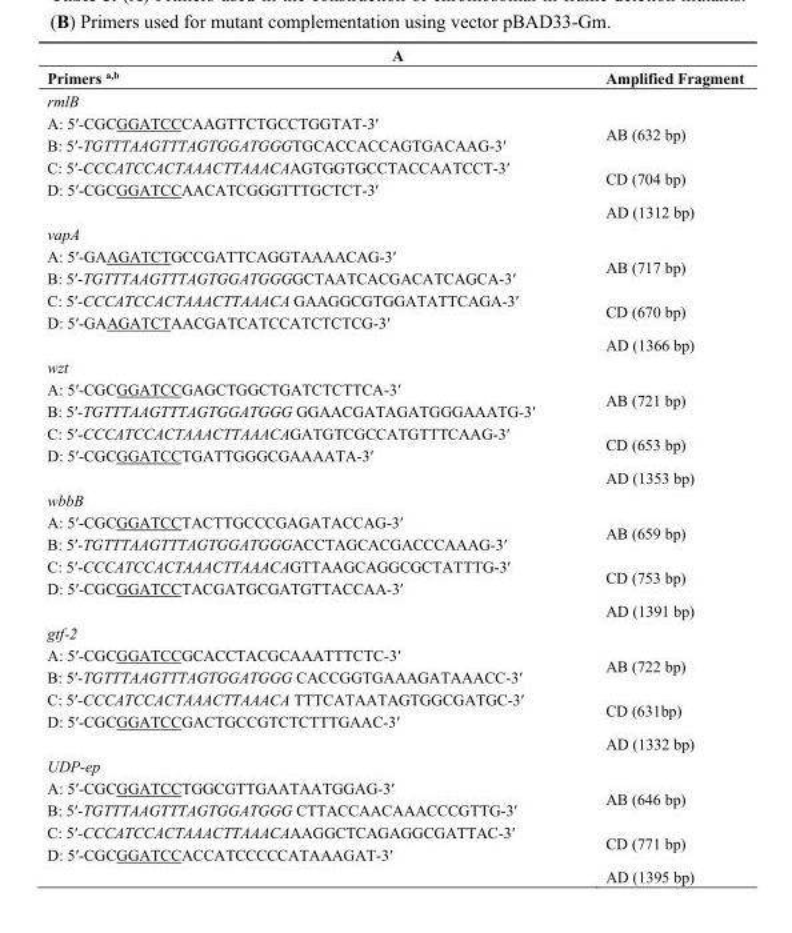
<table><thead><tr><td colspan="2">A</td></tr><tr><td>Primers <sup>a,b</sup></td><td>Amplified Fragment</td></tr></thead><tbody><tr><td colspan="2">rmlB</td></tr><tr><td>A: 5′-CGCGGATCCCAAGTTCTGCCTGGTAT-3′</td><td rowspan="2">AB (632 bp)</td></tr><tr><td>B: 5′-TGTTTAAGTTTAGTGGATGGGTGCACCACCAGTGACAAG-3′</td></tr><tr><td>C: 5′-CCCATCCACTAAACTTAAACAAGTGGTGCCTACCAATCCT-3′</td><td rowspan="2">CD (704 bp)</td></tr><tr><td rowspan="2">D: 5′-CGCGGATCCAACATCGGGTTTGCTCT-3′</td></tr><tr><td>AD (1312 bp)</td></tr><tr><td colspan="2">vapA</td></tr><tr><td>A: 5′-GAAGATCTGCCGATTCAGGTAAAACAG-3′</td><td rowspan="2">AB (717 bp)</td></tr><tr><td>B: 5′-TGTTTAAGTTTAGTGGATGGGGCTAATCACGACATCAGCA-3′</td></tr><tr><td>C: 5′-CCCATCCACTAAACTTAAACA GAAGGCGTGGATATTCAGA-3′</td><td rowspan="2">CD (670 bp)</td></tr><tr><td rowspan="2">D: 5′-GAAGATCTAACGATCATCCATCTCTCG-3′</td></tr><tr><td>AD (1366 bp)</td></tr><tr><td colspan="2">wzt</td></tr><tr><td>A: 5′-CGCGGATCCGAGCTGGCTGATCTCTTCA-3′</td><td rowspan="2">AB (721 bp)</td></tr><tr><td>B: 5′-TGTTTAAGTTTAGTGGATGGG GGAACGATAGATGGGAAATG-3′</td></tr><tr><td>C: 5′-CCCATCCACTAAACTTAAACAGATGTCGCCATGTTTCAAG-3′</td><td rowspan="2">CD (653 bp)</td></tr><tr><td rowspan="2">D: 5′-CGCGGATCCTGATTGGGCGAAAATA-3′</td></tr><tr><td>AD (1353 bp)</td></tr><tr><td colspan="2">wbbB</td></tr><tr><td>A: 5′-CGCGGATCCTACTTGCCCGAGATACCAG-3′</td><td rowspan="2">AB (659 bp)</td></tr><tr><td>B: 5′-TGTTTAAGTTTAGTGGATGGGACCTAGCACGACCCAAAG-3′</td></tr><tr><td>C: 5′-CCCATCCACTAAACTTAAACAGTTAAGCAGGCGCTATTTG-3′</td><td rowspan="2">CD (753 bp)</td></tr><tr><td rowspan="2">D: 5′-CGCGGATCCTACGATGCGATGTTACCAA-3′</td></tr><tr><td>AD (1391 bp)</td></tr><tr><td colspan="2">gtf-2</td></tr><tr><td>A: 5′-CGCGGATCCGCACCTACGCAAATTTCTC-3′</td><td rowspan="2">AB (722 bp)</td></tr><tr><td>B: 5′-TGTTTAAGTTTAGTGGATGGG CACCGGTGAAAGATAAACC-3′</td></tr><tr><td>C: 5′-CCCATCCACTAAACTTAAACA TTTCATAATAGTGGCGATGC-3′</td><td rowspan="2">CD (631bp)</td></tr><tr><td rowspan="2">D: 5′-CGCGGATCCGACTGCCGTCTCTTTGAAC-3′</td></tr><tr><td>AD (1332 bp)</td></tr><tr><td colspan="2">UDP-ep</td></tr><tr><td>A: 5′-CGCGGATCCTGGCGTTGAATAATGGAG-3′</td><td rowspan="2">AB (646 bp)</td></tr><tr><td>B: 5′-TGTTTAAGTTTAGTGGATGGG CTTACCAACAAACCCGTTG-3′</td></tr><tr><td>C: 5′-CCCATCCACTAAACTTAAACAAAGGCTCAGAGGCGATTAC-3′</td><td rowspan="2">CD (771 bp)</td></tr><tr><td rowspan="2">D: 5′-CGCGGATCCACCATCCCCCATAAAGAT-3′</td></tr><tr><td>AD (1395 bp)</td></tr></tbody></table>